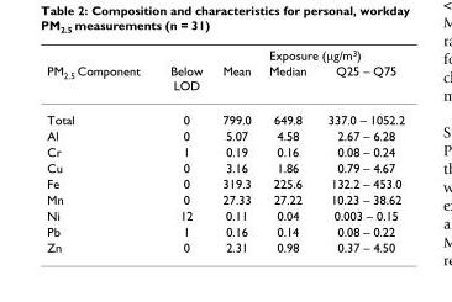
<table><thead><tr><td rowspan="2">PM<sub>2.5</sub> Component</td><td rowspan="2">Below LOD</td><td colspan="3">Exposure (μg/m<sup>3</sup>)</td></tr><tr><td>Mean</td><td>Median</td><td>Q25 – Q75</td></tr></thead><tbody><tr><td>Total</td><td>0</td><td>799.0</td><td>649.8</td><td>337.0 – 1052.2</td></tr><tr><td>Al</td><td>0</td><td>5.07</td><td>4.58</td><td>2.67 – 6.28</td></tr><tr><td>Cr</td><td>1</td><td>0.19</td><td>0.16</td><td>0.08 – 0.24</td></tr><tr><td>Cu</td><td>0</td><td>3.16</td><td>1.86</td><td>0.79 – 4.67</td></tr><tr><td>Fe</td><td>0</td><td>319.3</td><td>225.6</td><td>132.2 – 453.0</td></tr><tr><td>Mn</td><td>0</td><td>27.33</td><td>27.22</td><td>10.23 – 38.62</td></tr><tr><td>Ni</td><td>12</td><td>0.11</td><td>0.04</td><td>0.003 – 0.15</td></tr><tr><td>Pb</td><td>1</td><td>0.16</td><td>0.14</td><td>0.08 – 0.22</td></tr><tr><td>Zn</td><td>0</td><td>2.31</td><td>0.98</td><td>0.37 – 4.50</td></tr></tbody></table>